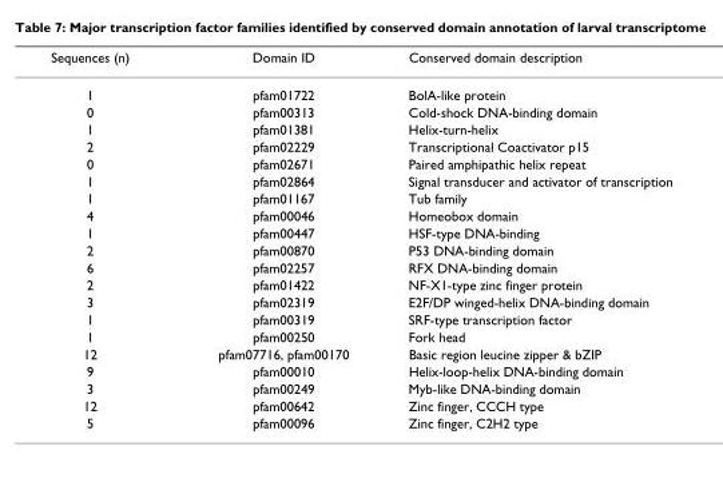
<table><thead><tr><td>Sequences (n)</td><td>Domain ID</td><td>Conserved domain description</td></tr></thead><tbody><tr><td>1</td><td>pfam01722</td><td>BolA-like protein</td></tr><tr><td>0</td><td>pfam00313</td><td>Cold-shock DNA-binding domain</td></tr><tr><td>1</td><td>pfam01381</td><td>Helix-turn-helix</td></tr><tr><td>2</td><td>pfam02229</td><td>Transcriptional Coactivator p15</td></tr><tr><td>0</td><td>pfam02671</td><td>Paired amphipathic helix repeat</td></tr><tr><td>1</td><td>pfam02864</td><td>Signal transducer and activator of transcription</td></tr><tr><td>1</td><td>pfam01167</td><td>Tub family</td></tr><tr><td>4</td><td>pfam00046</td><td>Homeobox domain</td></tr><tr><td>1</td><td>pfam00447</td><td>HSF-type DNA-binding</td></tr><tr><td>2</td><td>pfam00870</td><td>P53 DNA-binding domain</td></tr><tr><td>6</td><td>pfam02257</td><td>RFX DNA-binding domain</td></tr><tr><td>2</td><td>pfam01422</td><td>NF-X1-type zinc finger protein</td></tr><tr><td>3</td><td>pfam02319</td><td>E2F/DP winged-helix DNA-binding domain</td></tr><tr><td>1</td><td>pfam00319</td><td>SRF-type transcription factor</td></tr><tr><td>1</td><td>pfam00250</td><td>Fork head</td></tr><tr><td>12</td><td>pfam07716, pfam00170</td><td>Basic region leucine zipper &amp; bZIP</td></tr><tr><td>9</td><td>pfam00010</td><td>Helix-loop-helix DNA-binding domain</td></tr><tr><td>3</td><td>pfam00249</td><td>Myb-like DNA-binding domain</td></tr><tr><td>12</td><td>pfam00642</td><td>Zinc finger, CCCH type</td></tr><tr><td>5</td><td>pfam00096</td><td>Zinc finger, C2H2 type</td></tr></tbody></table>